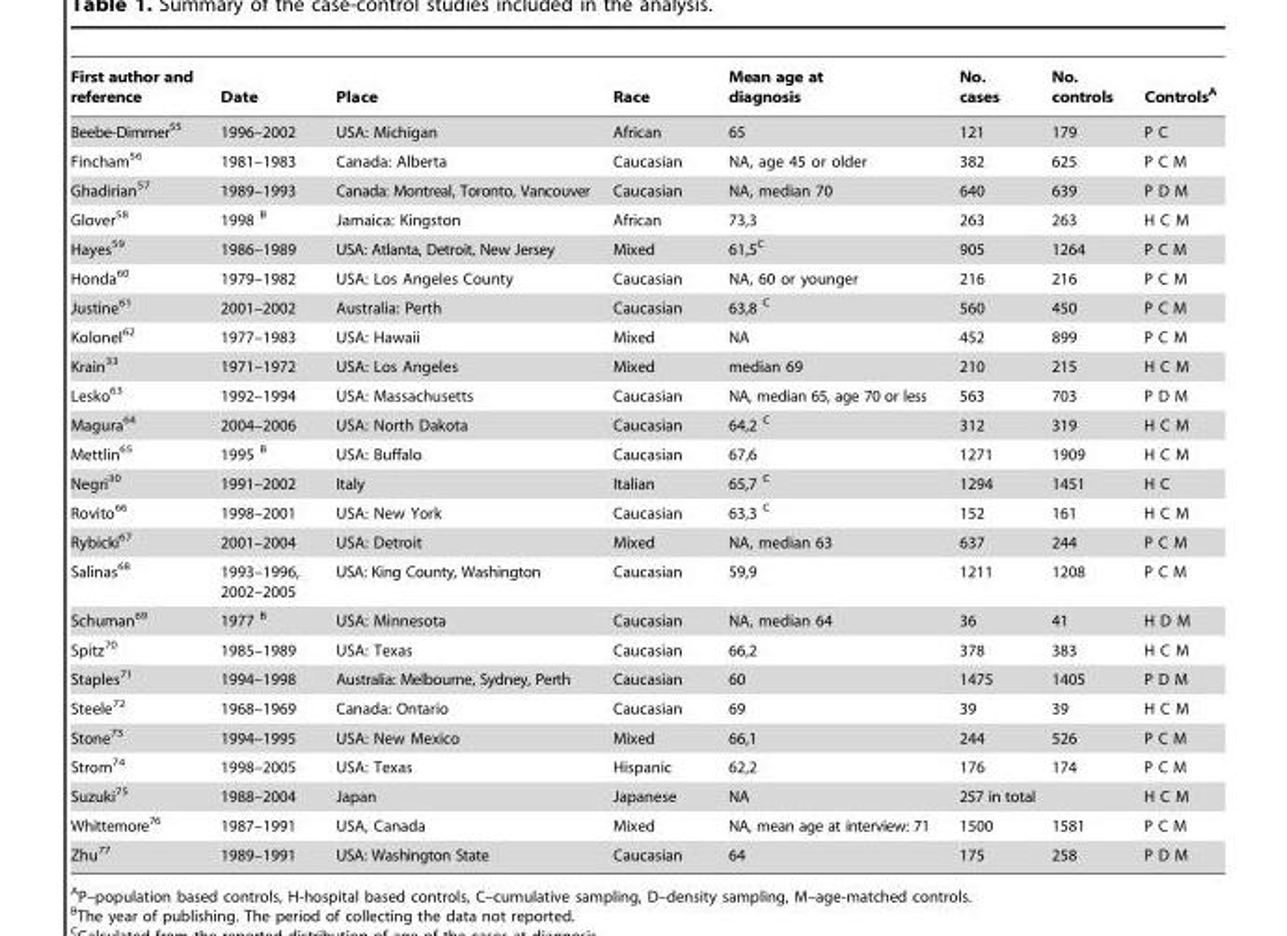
<table><thead><tr><td>First author and reference</td><td>Date</td><td>Place</td><td>Race</td><td>Mean age at diagnosis</td><td>No. cases</td><td>No. controls</td><td>Controls<sup>A</sup></td></tr></thead><tbody><tr><td>Beebe-Dimmer<sup>55</sup></td><td>1996–2002</td><td>USA: Michigan</td><td>African</td><td>65</td><td>121</td><td>179</td><td>P C</td></tr><tr><td>Fincham<sup>56</sup></td><td>1981–1983</td><td>Canada: Alberta</td><td>Caucasian</td><td>NA, age 45 or older</td><td>382</td><td>625</td><td>P C M</td></tr><tr><td>Ghadirian<sup>57</sup></td><td>1989–1993</td><td>Canada: Montreal, Toronto, Vancouver</td><td>Caucasian</td><td>NA, median 70</td><td>640</td><td>639</td><td>P D M</td></tr><tr><td>Glover<sup>58</sup></td><td>1998 B</td><td>Jamaica: Kingston</td><td>African</td><td>73,3</td><td>263</td><td>263</td><td>H C M</td></tr><tr><td>Hayes<sup>59</sup></td><td>1986–1989</td><td>USA: Atlanta, Detroit, New Jersey</td><td>Mixed</td><td>61,5<sup>C</sup></td><td>905</td><td>1264</td><td>P C M</td></tr><tr><td>Honda<sup>60</sup></td><td>1979–1982</td><td>USA: Los Angeles County</td><td>Caucasian</td><td>NA, 60 or younger</td><td>216</td><td>216</td><td>P C M</td></tr><tr><td>Justine<sup>61</sup></td><td>2001–2002</td><td>Australia: Perth</td><td>Caucasian</td><td>63,8 C</td><td>560</td><td>450</td><td>P C M</td></tr><tr><td>Kolonel<sup>62</sup></td><td>1977–1983</td><td>USA: Hawaii</td><td>Mixed</td><td>NA</td><td>452</td><td>899</td><td>P C M</td></tr><tr><td>Krain<sup>33</sup></td><td>1971–1972</td><td>USA: Los Angeles</td><td>Mixed</td><td>median 69</td><td>210</td><td>215</td><td>H C M</td></tr><tr><td>Lesko<sup>63</sup></td><td>1992–1994</td><td>USA: Massachusetts</td><td>Caucasian</td><td>NA, median 65, age 70 or less</td><td>563</td><td>703</td><td>P D M</td></tr><tr><td>Magura<sup>64</sup></td><td>2004–2006</td><td>USA: North Dakota</td><td>Caucasian</td><td>64,2 C</td><td>312</td><td>319</td><td>H C M</td></tr><tr><td>Mettlin<sup>65</sup></td><td>1995 B</td><td>USA: Buffalo</td><td>Caucasian</td><td>67,6</td><td>1271</td><td>1909</td><td>H C M</td></tr><tr><td>Negri<sup>30</sup></td><td>1991–2002</td><td>Italy</td><td>Italian</td><td>65,7 C</td><td>1294</td><td>1451</td><td>H C</td></tr><tr><td>Rovito<sup>66</sup></td><td>1998–2001</td><td>USA: New York</td><td>Caucasian</td><td>63,3 C</td><td>152</td><td>161</td><td>H C M</td></tr><tr><td>Rybicki<sup>67</sup></td><td>2001–2004</td><td>USA: Detroit</td><td>Mixed</td><td>NA, median 63</td><td>637</td><td>244</td><td>P C M</td></tr><tr><td>Salinas<sup>68</sup></td><td>1993–1996, 2002–2005</td><td>USA: King County, Washington</td><td>Caucasian</td><td>59,9</td><td>1211</td><td>1208</td><td>P C M</td></tr><tr><td>Schuman<sup>69</sup></td><td>1977 B</td><td>USA: Minnesota</td><td>Caucasian</td><td>NA, median 64</td><td>36</td><td>41</td><td>H D M</td></tr><tr><td>Spitz<sup>70</sup></td><td>1985–1989</td><td>USA: Texas</td><td>Caucasian</td><td>66,2</td><td>378</td><td>383</td><td>H C M</td></tr><tr><td>Staples<sup>71</sup></td><td>1994–1998</td><td>Australia: Melbourne, Sydney, Perth</td><td>Caucasian</td><td>60</td><td>1475</td><td>1405</td><td>P D M</td></tr><tr><td>Steele<sup>72</sup></td><td>1968–1969</td><td>Canada: Ontario</td><td>Caucasian</td><td>69</td><td>39</td><td>39</td><td>H C M</td></tr><tr><td>Stone<sup>73</sup></td><td>1994–1995</td><td>USA: New Mexico</td><td>Mixed</td><td>66,1</td><td>244</td><td>526</td><td>P C M</td></tr><tr><td>Strom<sup>74</sup></td><td>1998–2005</td><td>USA: Texas</td><td>Hispanic</td><td>62,2</td><td>176</td><td>174</td><td>P C M</td></tr><tr><td>Suzuki<sup>75</sup></td><td>1988–2004</td><td>Japan</td><td>Japanese</td><td>NA</td><td colspan="2">257 in total</td><td>H C M</td></tr><tr><td>Whittemore<sup>76</sup></td><td>1987–1991</td><td>USA, Canada</td><td>Mixed</td><td>NA, mean age at interview: 71</td><td>1500</td><td>1581</td><td>P C M</td></tr><tr><td>Zhu<sup>77</sup></td><td>1989–1991</td><td>USA: Washington State</td><td>Caucasian</td><td>64</td><td>175</td><td>258</td><td>P D M</td></tr></tbody></table>